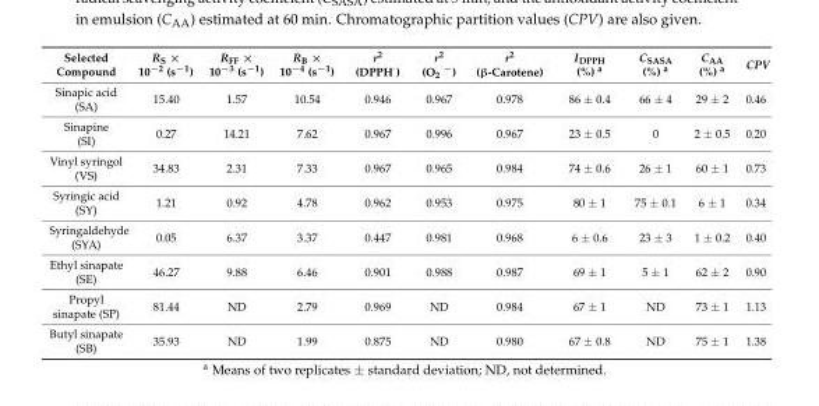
<table><thead><tr><td>Selected Compound</td><td>R<sub>S</sub> × 10<sup>−2</sup> (s<sup>−1</sup>)</td><td>R<sub>FF</sub> × 10<sup>−3</sup> (s<sup>−1</sup>)</td><td>R<sub>B</sub> × 10<sup>−4</sup> (s<sup>−1</sup>)</td><td>r2 (DPPH·)</td><td>r2 (O2 ·−)</td><td>r<sup>2</sup> (β-Carotene)</td><td>I<sub>DPPH</sub> (%) <sup>a</sup></td><td>C<sub>SASA</sub> (%) <sup>a</sup></td><td>C<sub>AA</sub> (%) <sup>a</sup></td><td>CPV</td></tr></thead><tbody><tr><td>Sinapic acid (SA)</td><td>15.40</td><td>1.57</td><td>10.54</td><td>0.946</td><td>0.967</td><td>0.978</td><td>86 ± 0.4</td><td>66 ± 4</td><td>29 ± 2</td><td>0.46</td></tr><tr><td>Sinapine (SI)</td><td>0.27</td><td>14.21</td><td>7.62</td><td>0.967</td><td>0.996</td><td>0.967</td><td>23 ± 0.5</td><td>0</td><td>2 ± 0.5</td><td>0.20</td></tr><tr><td>Vinyl syringol (VS)</td><td>34.83</td><td>2.31</td><td>7.33</td><td>0.967</td><td>0.965</td><td>0.984</td><td>74 ± 0.6</td><td>26 ± 1</td><td>60 ± 1</td><td>0.73</td></tr><tr><td>Syringic acid (SY)</td><td>1.21</td><td>0.92</td><td>4.78</td><td>0.962</td><td>0.953</td><td>0.975</td><td>80 ± 1</td><td>75 ± 0.1</td><td>6 ± 1</td><td>0.34</td></tr><tr><td>Syringaldehyde (SYA)</td><td>0.05</td><td>6.37</td><td>3.37</td><td>0.447</td><td>0.981</td><td>0.968</td><td>6 ± 0.6</td><td>23 ± 3</td><td>1 ± 0.2</td><td>0.40</td></tr><tr><td>Ethyl sinapate (SE)</td><td>46.27</td><td>9.88</td><td>6.46</td><td>0.901</td><td>0.988</td><td>0.987</td><td>69 ± 1</td><td>5 ± 1</td><td>62 ± 2</td><td>0.90</td></tr><tr><td>Propyl sinapate (SP)</td><td>81.44</td><td>ND</td><td>2.79</td><td>0.969</td><td>ND</td><td>0.984</td><td>67 ± 1</td><td>ND</td><td>73 ± 1</td><td>1.13</td></tr><tr><td>Butyl sinapate (SB)</td><td>35.93</td><td>ND</td><td>1.99</td><td>0.875</td><td>ND</td><td>0.980</td><td>67 ± 0.8</td><td>ND</td><td>75 ± 1</td><td>1.38</td></tr></tbody></table>